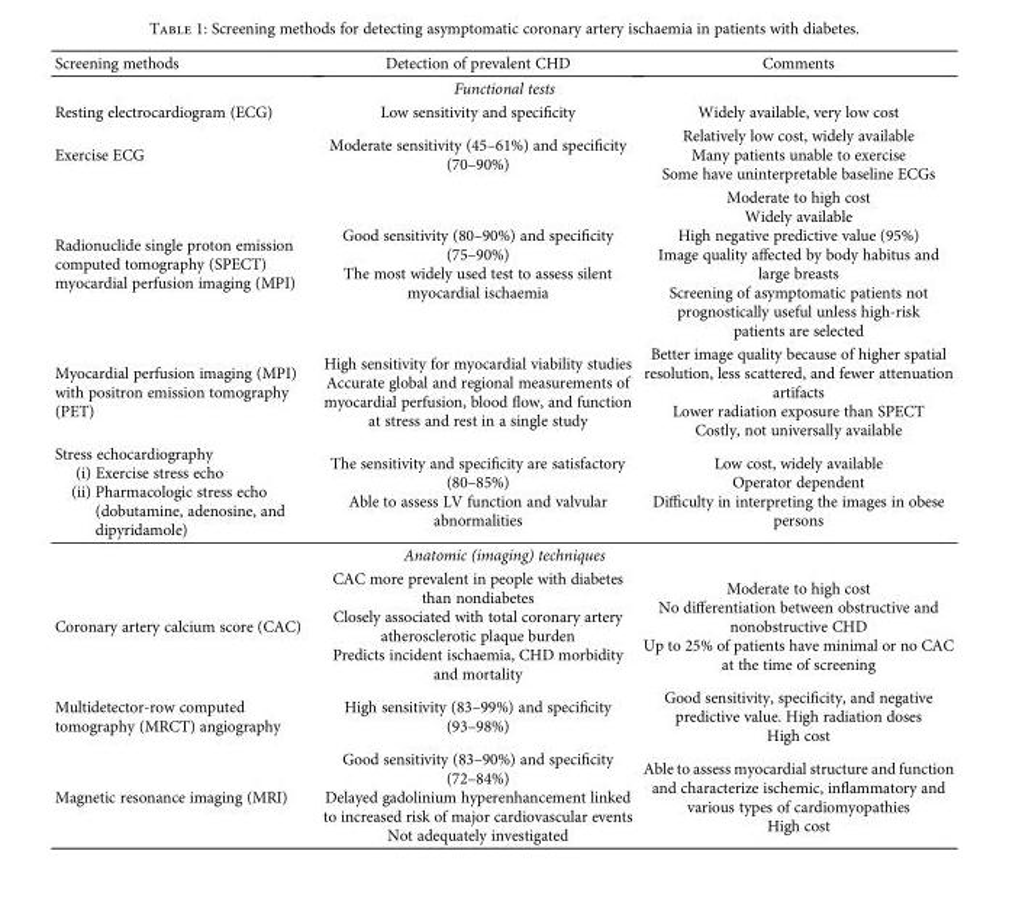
<table><thead><tr><td>Screening methods</td><td>Detection of prevalent CHD</td><td>Comments</td></tr></thead><tbody><tr><td colspan="3">Functional tests</td></tr><tr><td>Resting electrocardiogram (ECG)</td><td>Low sensitivity and specificity</td><td>Widely available, very low cost</td></tr><tr><td>Exercise ECG</td><td>Moderate sensitivity (45–61%) and specificity (70–90%)</td><td>Relatively low cost, widely available Many patients unable to exercise Some have uninterpretable baseline ECGs</td></tr><tr><td>Radionuclide single proton emission computed tomography (SPECT) myocardial perfusion imaging (MPI)</td><td>Good sensitivity (80–90%) and specificity (75–90%) The most widely used test to assess silent myocardial ischaemia</td><td>Moderate to high cost Widely available High negative predictive value (95%) Image quality affected by body habitus and large breasts Screening of asymptomatic patients not prognostically useful unless high-risk patients are selected</td></tr><tr><td>Myocardial perfusion imaging (MPI) with positron emission tomography (PET)</td><td>High sensitivity for myocardial viability studies Accurate global and regional measurements of myocardial perfusion, blood flow, and function at stress and rest in a single study</td><td>Better image quality because of higher spatial resolution, less scattered, and fewer attenuation artifacts Lower radiation exposure than SPECT Costly, not universally available</td></tr><tr><td>Stress echocardiography (i) Exercise stress echo (ii) Pharmacologic stress echo (dobutamine, adenosine, and dipyridamole)</td><td>The sensitivity and specificity are satisfactory (80–85%) Able to assess LV function and valvular abnormalities</td><td>Low cost, widely available Operator dependent Difficulty in interpreting the images in obese persons</td></tr><tr><td colspan="3">Anatomic (imaging) techniques</td></tr><tr><td>Coronary artery calcium score (CAC)</td><td>CAC more prevalent in people with diabetes than nondiabetes Closely associated with total coronary artery atherosclerotic plaque burden Predicts incident ischaemia, CHD morbidity and mortality</td><td>Moderate to high cost No differentiation between obstructive and nonobstructive CHD Up to 25% of patients have minimal or no CAC at the time of screening</td></tr><tr><td>Multidetector-row computed tomography (MRCT) angiography</td><td>High sensitivity (83–99%) and specificity (93–98%)</td><td>Good sensitivity, specificity, and negative predictive value. High radiation doses High cost</td></tr><tr><td>Magnetic resonance imaging (MRI)</td><td>Good sensitivity (83–90%) and specificity (72–84%) Delayed gadolinium hyperenhancement linked to increased risk of major cardiovascular events Not adequately investigated</td><td>Able to assess myocardial structure and function and characterize ischemic, inflammatory and various types of cardiomyopathies High cost</td></tr></tbody></table>